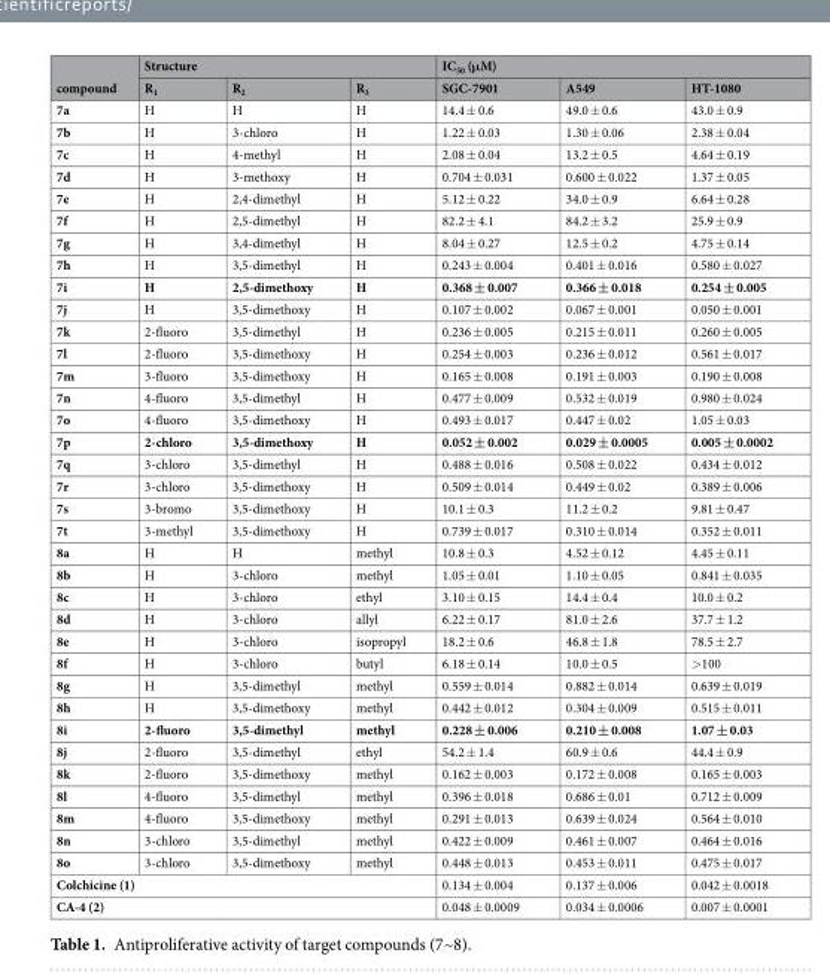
<table><thead><tr><td rowspan="2">compound</td><td colspan="3">Structure</td><td colspan="3">IC<sub>50</sub> (μM)</td></tr><tr><td>R<sub>1</sub></td><td>R<sub>2</sub></td><td>R<sub>3</sub></td><td>SGC-7901</td><td>A549</td><td>HT-1080</td></tr></thead><tbody><tr><td>7a</td><td>H</td><td>H</td><td>H</td><td>14.4 ± 0.6</td><td>49.0 ± 0.6</td><td>43.0 ± 0.9</td></tr><tr><td>7b</td><td>H</td><td>3-chloro</td><td>H</td><td>1.22 ± 0.03</td><td>1.30 ± 0.06</td><td>2.38 ± 0.04</td></tr><tr><td>7c</td><td>H</td><td>4-methyl</td><td>H</td><td>2.08 ± 0.04</td><td>13.2 ± 0.5</td><td>4.64 ± 0.19</td></tr><tr><td>7d</td><td>H</td><td>3-methoxy</td><td>H</td><td>0.704 ± 0.031</td><td>0.600 ± 0.022</td><td>1.37 ± 0.05</td></tr><tr><td>7e</td><td>H</td><td>2,4-dimethyl</td><td>H</td><td>5.12 ± 0.22</td><td>34.0 ± 0.9</td><td>6.64 ± 0.28</td></tr><tr><td>7f</td><td>H</td><td>2,5-dimethyl</td><td>H</td><td>82.2 ± 4.1</td><td>84.2 ± 3.2</td><td>25.9 ± 0.9</td></tr><tr><td>7g</td><td>H</td><td>3,4-dimethyl</td><td>H</td><td>8.04 ± 0.27</td><td>12.5 ± 0.2</td><td>4.75 ± 0.14</td></tr><tr><td>7h</td><td>H</td><td>3,5-dimethyl</td><td>H</td><td>0.243 ± 0.004</td><td>0.401 ± 0.016</td><td>0.580 ± 0.027</td></tr><tr><td>7i</td><td>H</td><td>2,5-dimethoxy</td><td>H</td><td>0.368 ± 0.007</td><td>0.366 ± 0.018</td><td>0.254 ± 0.005</td></tr><tr><td>7j</td><td>H</td><td>3,5-dimethoxy</td><td>H</td><td>0.107 ± 0.002</td><td>0.067 ± 0.001</td><td>0.050 ± 0.001</td></tr><tr><td>7k</td><td>2-fluoro</td><td>3,5-dimethyl</td><td>H</td><td>0.236 ± 0.005</td><td>0.215 ± 0.011</td><td>0.260 ± 0.005</td></tr><tr><td>7l</td><td>2-fluoro</td><td>3,5-dimethoxy</td><td>H</td><td>0.254 ± 0.003</td><td>0.236 ± 0.012</td><td>0.561 ± 0.017</td></tr><tr><td>7m</td><td>3-fluoro</td><td>3,5-dimethoxy</td><td>H</td><td>0.165 ± 0.008</td><td>0.191 ± 0.003</td><td>0.190 ± 0.008</td></tr><tr><td>7n</td><td>4-fluoro</td><td>3,5-dimethyl</td><td>H</td><td>0.477 ± 0.009</td><td>0.532 ± 0.019</td><td>0.980 ± 0.024</td></tr><tr><td>7o</td><td>4-fluoro</td><td>3,5-dimethoxy</td><td>H</td><td>0.493 ± 0.017</td><td>0.447 ± 0.02</td><td>1.05 ± 0.03</td></tr><tr><td>7p</td><td>2-chloro</td><td>3,5-dimethoxy</td><td>H</td><td>0.052 ± 0.002</td><td>0.029 ± 0.0005</td><td>0.005 ± 0.0002</td></tr><tr><td>7q</td><td>3-chloro</td><td>3,5-dimethyl</td><td>H</td><td>0.488 ± 0.016</td><td>0.508 ± 0.022</td><td>0.434 ± 0.012</td></tr><tr><td>7r</td><td>3-chloro</td><td>3,5-dimethoxy</td><td>H</td><td>0.509 ± 0.014</td><td>0.449 ± 0.02</td><td>0.389 ± 0.006</td></tr><tr><td>7s</td><td>3-bromo</td><td>3,5-dimethoxy</td><td>H</td><td>10.1 ± 0.3</td><td>11.2 ± 0.2</td><td>9.81 ± 0.47</td></tr><tr><td>7t</td><td>3-methyl</td><td>3,5-dimethoxy</td><td>H</td><td>0.739 ± 0.017</td><td>0.310 ± 0.014</td><td>0.352 ± 0.011</td></tr><tr><td>8a</td><td>H</td><td>H</td><td>methyl</td><td>10.8 ± 0.3</td><td>4.52 ± 0.12</td><td>4.45 ± 0.11</td></tr><tr><td>8b</td><td>H</td><td>3-chloro</td><td>methyl</td><td>1.05 ± 0.01</td><td>1.10 ± 0.05</td><td>0.841 ± 0.035</td></tr><tr><td>8c</td><td>H</td><td>3-chloro</td><td>ethyl</td><td>3.10 ± 0.15</td><td>14.4 ± 0.4</td><td>10.0 ± 0.2</td></tr><tr><td>8d</td><td>H</td><td>3-chloro</td><td>allyl</td><td>6.22 ± 0.17</td><td>81.0 ± 2.6</td><td>37.7 ± 1.2</td></tr><tr><td>8e</td><td>H</td><td>3-chloro</td><td>isopropyl</td><td>18.2 ± 0.6</td><td>46.8 ± 1.8</td><td>78.5 ± 2.7</td></tr><tr><td>8f</td><td>H</td><td>3-chloro</td><td>butyl</td><td>6.18 ± 0.14</td><td>10.0 ± 0.5</td><td>&gt;100</td></tr><tr><td>8g</td><td>H</td><td>3,5-dimethyl</td><td>methyl</td><td>0.559 ± 0.014</td><td>0.882 ± 0.014</td><td>0.639 ± 0.019</td></tr><tr><td>8h</td><td>H</td><td>3,5-dimethoxy</td><td>methyl</td><td>0.442 ± 0.012</td><td>0.304 ± 0.009</td><td>0.515 ± 0.011</td></tr><tr><td>8i</td><td>2-fluoro</td><td>3,5-dimethyl</td><td>methyl</td><td>0.228 ± 0.006</td><td>0.210 ± 0.008</td><td>1.07 ± 0.03</td></tr><tr><td>8j</td><td>2-fluoro</td><td>3,5-dimethyl</td><td>ethyl</td><td>54.2 ± 1.4</td><td>60.9 ± 0.6</td><td>44.4 ± 0.9</td></tr><tr><td>8k</td><td>2-fluoro</td><td>3,5-dimethoxy</td><td>methyl</td><td>0.162 ± 0.003</td><td>0.172 ± 0.008</td><td>0.165 ± 0.003</td></tr><tr><td>8l</td><td>4-fluoro</td><td>3,5-dimethyl</td><td>methyl</td><td>0.396 ± 0.018</td><td>0.686 ± 0.01</td><td>0.712 ± 0.009</td></tr><tr><td>8m</td><td>4-fluoro</td><td>3,5-dimethoxy</td><td>methyl</td><td>0.291 ± 0.013</td><td>0.639 ± 0.024</td><td>0.564 ± 0.010</td></tr><tr><td>8n</td><td>3-chloro</td><td>3,5-dimethyl</td><td>methyl</td><td>0.422 ± 0.009</td><td>0.461 ± 0.007</td><td>0.464 ± 0.016</td></tr><tr><td>8o</td><td>3-chloro</td><td>3,5-dimethoxy</td><td>methyl</td><td>0.448 ± 0.013</td><td>0.453 ± 0.011</td><td>0.475 ± 0.017</td></tr><tr><td colspan="4">Colchicine (1)</td><td>0.134 ± 0.004</td><td>0.137 ± 0.006</td><td>0.042 ± 0.0018</td></tr><tr><td colspan="4">CA-4 (2)</td><td>0.048 ± 0.0009</td><td>0.034 ± 0.0006</td><td>0.007 ± 0.0001</td></tr></tbody></table>